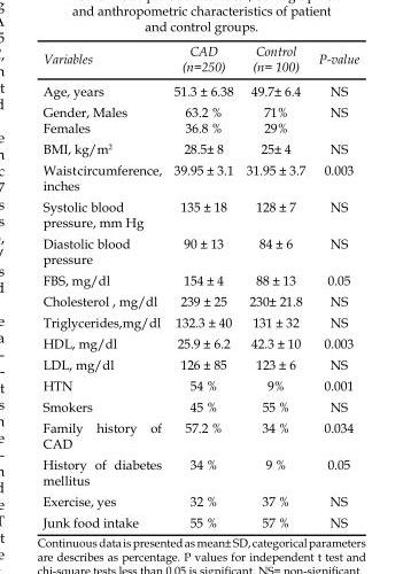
<table><thead><tr><td>Variables</td><td>CAD (n=250)</td><td>Control (n= 100)</td><td>P-value</td></tr></thead><tbody><tr><td>Age, years</td><td>51.3 ± 6.38</td><td>49.7± 6.4</td><td>NS</td></tr><tr><td>Gender, Males Females</td><td>63.2 % 36.8 %</td><td>71% 29%</td><td>NS</td></tr><tr><td>BMI, kg/m<sup>2</sup></td><td>28.5± 8</td><td>25± 4</td><td>NS</td></tr><tr><td>Waist circumference, inches</td><td>39.95 ± 3.1</td><td>31.95 ± 3.7</td><td>0.003</td></tr><tr><td>Systolic blood pressure, mm Hg</td><td>135 ± 18</td><td>128 ± 7</td><td>NS</td></tr><tr><td>Diastolic blood pressure</td><td>90 ± 13</td><td>84 ± 6</td><td>NS</td></tr><tr><td>FBS, mg/dl</td><td>154 ± 4</td><td>88 ± 13</td><td>0.05</td></tr><tr><td>Cholesterol , mg/dl</td><td>239 ± 25</td><td>230± 21.8</td><td>NS</td></tr><tr><td>Triglycerides,mg/dl</td><td>132.3 ± 40</td><td>131 ± 32</td><td>NS</td></tr><tr><td>HDL, mg/dl</td><td>25.9 ± 6.2</td><td>42.3 ± 10</td><td>0.003</td></tr><tr><td>LDL, mg/dl</td><td>126 ± 85</td><td>123 ± 6</td><td>NS</td></tr><tr><td>HTN</td><td>54 %</td><td>9%</td><td>0.001</td></tr><tr><td>Smokers</td><td>45 %</td><td>55 %</td><td>NS</td></tr><tr><td>Family history of CAD</td><td>57.2 %</td><td>34 %</td><td>0.034</td></tr><tr><td>History of diabetes mellitus</td><td>34 %</td><td>9 %</td><td>0.05</td></tr><tr><td>Exercise, yes</td><td>32 %</td><td>37 %</td><td>NS</td></tr><tr><td>Junk food intake</td><td>55 %</td><td>57 %</td><td>NS</td></tr></tbody></table>